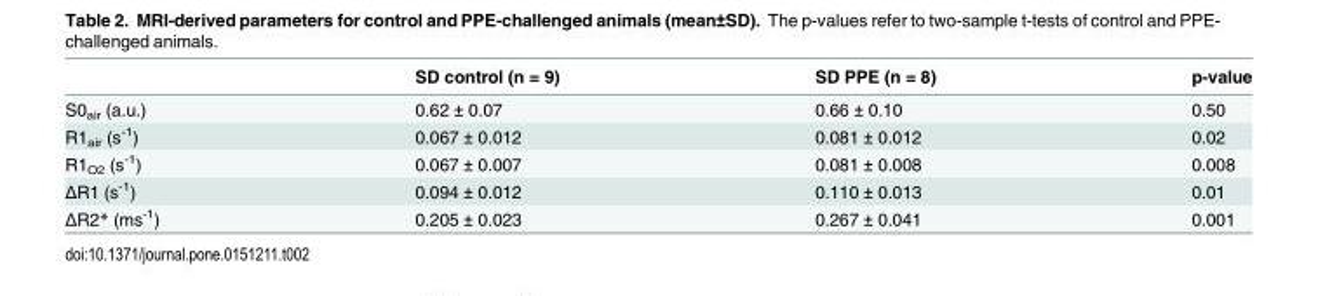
<table><thead><tr><td></td><td>SD control (n = 9)</td><td>SD PPE (n = 8)</td><td>p-value</td></tr></thead><tbody><tr><td>S0<sub>air</sub> (a.u.)</td><td>0.62 ± 0.07</td><td>0.66 ± 0.10</td><td>0.50</td></tr><tr><td>R1<sub>air</sub> (s<sup>-1</sup>)</td><td>0.067 ± 0.012</td><td>0.081 ± 0.012</td><td>0.02</td></tr><tr><td>R1<sub>O2</sub> (s<sup>-1</sup>)</td><td>0.067 ± 0.007</td><td>0.081 ± 0.008</td><td>0.008</td></tr><tr><td>ΔR1 (s<sup>-1</sup>)</td><td>0.094 ± 0.012</td><td>0.110 ± 0.013</td><td>0.01</td></tr><tr><td>ΔR2* (ms<sup>-1</sup>)</td><td>0.205 ± 0.023</td><td>0.267 ± 0.041</td><td>0.001</td></tr></tbody></table>